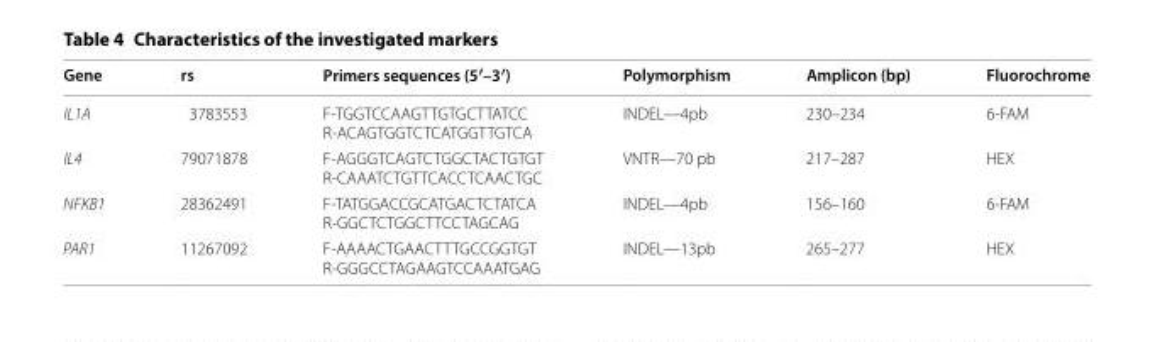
<table><thead><tr><td>Gene</td><td>rs</td><td>Primers sequences (5′–3′)</td><td>Polymorphism</td><td>Amplicon (bp)</td><td>Fluorochrome</td></tr></thead><tbody><tr><td>IL1A</td><td>3783553</td><td>F‑TGGTCCAAGTTGTGCTTATCC R‑ACAGTGGTCTCATGGTTGTCA</td><td>INDEL—4pb</td><td>230–234</td><td>6‑FAM</td></tr><tr><td>IL4</td><td>79071878</td><td>F‑AGGGTCAGTCTGGCTACTGTGT R‑CAAATCTGTTCACCTCAACTGC</td><td>VNTR—70 pb</td><td>217–287</td><td>HEX</td></tr><tr><td>NFKB1</td><td>28362491</td><td>F‑TATGGACCGCATGACTCTATCA R‑GGCTCTGGCTTCCTAGCAG</td><td>INDEL—4pb</td><td>156–160</td><td>6‑FAM</td></tr><tr><td>PAR1</td><td>11267092</td><td>F‑AAAACTGAACTTTGCCGGTGT R‑GGGCCTAGAAGTCCAAATGAG</td><td>INDEL—13pb</td><td>265–277</td><td>HEX</td></tr></tbody></table>